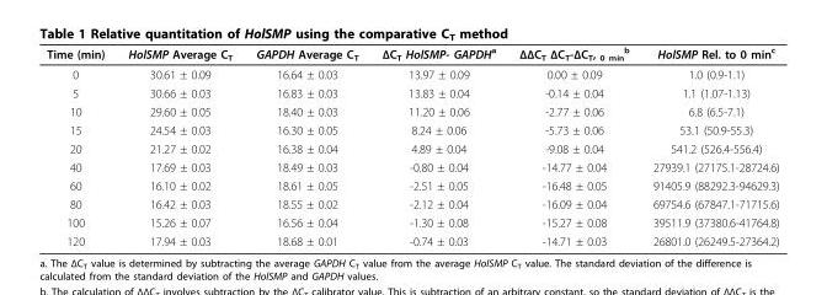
<table><thead><tr><td>Time (min)</td><td>HolSMP Average C<sub>T</sub></td><td>GAPDH Average C<sub>T</sub></td><td>ΔC<sub>T</sub> HolSMP- GAPDH<sup>a</sup></td><td>ΔΔC<sub>T</sub> ΔC<sub>T</sub>-ΔC<sub>T</sub>, <sub>0 min</sub> <sup>b</sup></td><td>HolSMP Rel. to 0 min<sup>c</sup></td></tr></thead><tbody><tr><td>0</td><td>30.61 ± 0.09</td><td>16.64 ± 0.03</td><td>13.97 ± 0.09</td><td>0.00 ± 0.09</td><td>1.0 (0.9-1.1)</td></tr><tr><td>5</td><td>30.66 ± 0.03</td><td>16.83 ± 0.03</td><td>13.83 ± 0.04</td><td>-0.14 ± 0.04</td><td>1.1 (1.07-1.13)</td></tr><tr><td>10</td><td>29.60 ± 0.05</td><td>18.40 ± 0.03</td><td>11.20 ± 0.06</td><td>-2.77 ± 0.06</td><td>6.8 (6.5-7.1)</td></tr><tr><td>15</td><td>24.54 ± 0.03</td><td>16.30 ± 0.05</td><td>8.24 ± 0.06</td><td>-5.73 ± 0.06</td><td>53.1 (50.9-55.3)</td></tr><tr><td>20</td><td>21.27 ± 0.02</td><td>16.38 ± 0.04</td><td>4.89 ± 0.04</td><td>-9.08 ± 0.04</td><td>541.2 (526.4-556.4)</td></tr><tr><td>40</td><td>17.69 ± 0.03</td><td>18.49 ± 0.03</td><td>-0.80 ± 0.04</td><td>-14.77 ± 0.04</td><td>27939.1 (27175.1-28724.6)</td></tr><tr><td>60</td><td>16.10 ± 0.02</td><td>18.61 ± 0.05</td><td>-2.51 ± 0.05</td><td>-16.48 ± 0.05</td><td>91405.9 (88292.3-94629.3)</td></tr><tr><td>80</td><td>16.42 ± 0.03</td><td>18.55 ± 0.02</td><td>-2.12 ± 0.04</td><td>-16.09 ± 0.04</td><td>69754.6 (67847.1-71715.6)</td></tr><tr><td>100</td><td>15.26 ± 0.07</td><td>16.56 ± 0.04</td><td>-1.30 ± 0.08</td><td>-15.27 ± 0.08</td><td>39511.9 (37380.6-41764.8)</td></tr><tr><td>120</td><td>17.94 ± 0.03</td><td>18.68 ± 0.01</td><td>-0.74 ± 0.03</td><td>-14.71 ± 0.03</td><td>26801.0 (26249.5-27364.2)</td></tr></tbody></table>